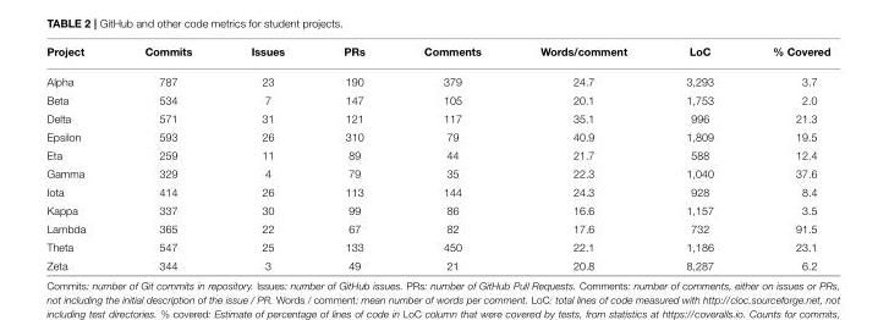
<table><thead><tr><td>Project</td><td>Commits</td><td>Issues</td><td>PRs</td><td>Comments</td><td>Words/comment</td><td>LoC</td><td>% Covered</td></tr></thead><tbody><tr><td>Alpha</td><td>787</td><td>23</td><td>190</td><td>379</td><td>24.7</td><td>3,293</td><td>3.7</td></tr><tr><td>Beta</td><td>534</td><td>7</td><td>147</td><td>105</td><td>20.1</td><td>1,753</td><td>2.0</td></tr><tr><td>Delta</td><td>571</td><td>31</td><td>121</td><td>117</td><td>35.1</td><td>996</td><td>21.3</td></tr><tr><td>Epsilon</td><td>593</td><td>26</td><td>310</td><td>79</td><td>40.9</td><td>1,809</td><td>19.5</td></tr><tr><td>Eta</td><td>259</td><td>11</td><td>89</td><td>44</td><td>21.7</td><td>588</td><td>12.4</td></tr><tr><td>Gamma</td><td>329</td><td>4</td><td>79</td><td>35</td><td>22.3</td><td>1,040</td><td>37.6</td></tr><tr><td>Iota</td><td>414</td><td>26</td><td>113</td><td>144</td><td>24.3</td><td>928</td><td>8.4</td></tr><tr><td>Kappa</td><td>337</td><td>30</td><td>99</td><td>86</td><td>16.6</td><td>1,157</td><td>3.5</td></tr><tr><td>Lambda</td><td>365</td><td>22</td><td>67</td><td>82</td><td>17.6</td><td>732</td><td>91.5</td></tr><tr><td>Theta</td><td>547</td><td>25</td><td>133</td><td>450</td><td>22.1</td><td>1,186</td><td>23.1</td></tr><tr><td>Zeta</td><td>344</td><td>3</td><td>49</td><td>21</td><td>20.8</td><td>8,287</td><td>6.2</td></tr></tbody></table>